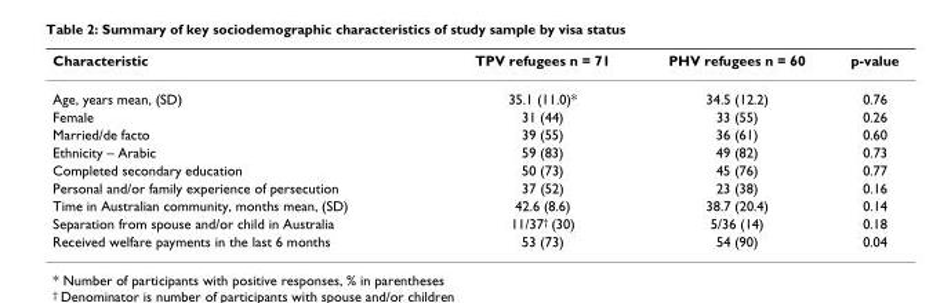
<table><thead><tr><td>Characteristic</td><td>TPV refugees n = 71</td><td>PHV refugees n = 60</td><td>p-value</td></tr></thead><tbody><tr><td>Age, years mean, (SD)</td><td>35.1 (11.0)*</td><td>34.5 (12.2)</td><td>0.76</td></tr><tr><td>Female</td><td>31 (44)</td><td>33 (55)</td><td>0.26</td></tr><tr><td>Married/de facto</td><td>39 (55)</td><td>36 (61)</td><td>0.60</td></tr><tr><td>Ethnicity – Arabic</td><td>59 (83)</td><td>49 (82)</td><td>0.73</td></tr><tr><td>Completed secondary education</td><td>50 (73)</td><td>45 (76)</td><td>0.77</td></tr><tr><td>Personal and/or family experience of persecution</td><td>37 (52)</td><td>23 (38)</td><td>0.16</td></tr><tr><td>Time in Australian community, months mean, (SD)</td><td>42.6 (8.6)</td><td>38.7 (20.4)</td><td>0.14</td></tr><tr><td>Separation from spouse and/or child in Australia</td><td>11/37<sup>†</sup> (30)</td><td>5/36 (14)</td><td>0.18</td></tr><tr><td>Received welfare payments in the last 6 months</td><td>53 (73)</td><td>54 (90)</td><td>0.04</td></tr></tbody></table>